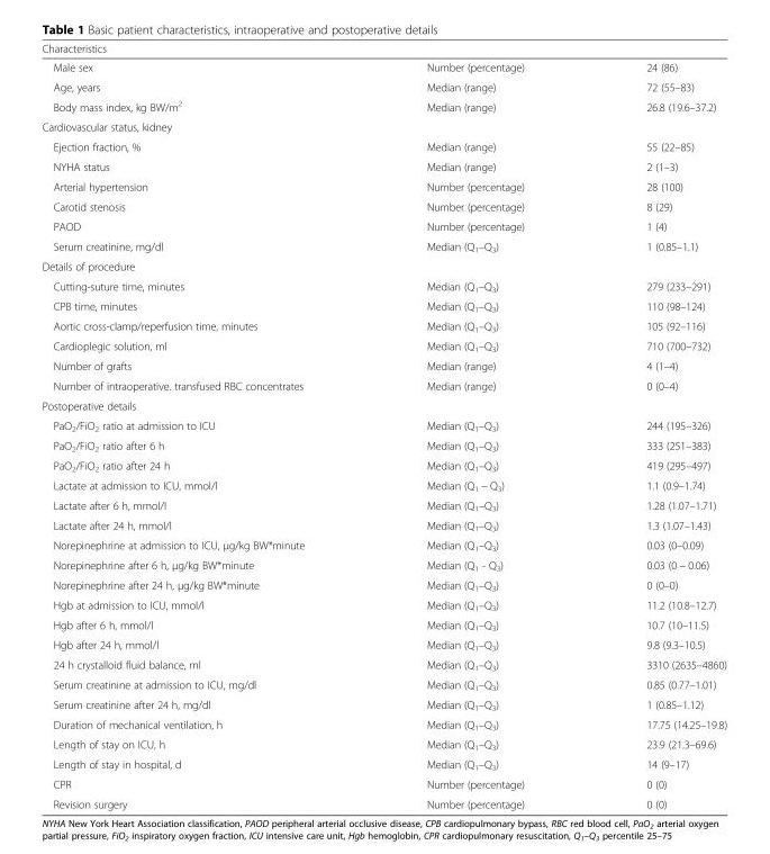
<table><thead><tr><td colspan="3">Characteristics</td></tr><tr><td>Male sex</td><td>Number (percentage)</td><td>24 (86)</td></tr></thead><tbody><tr><td>Age, years</td><td>Median (range)</td><td>72 (55–83)</td></tr><tr><td>Body mass index, kg BW/m<sup>2</sup></td><td>Median (range)</td><td>26.8 (19.6–37.2)</td></tr><tr><td colspan="3">Cardiovascular status, kidney</td></tr><tr><td>Ejection fraction, %</td><td>Median (range)</td><td>55 (22–85)</td></tr><tr><td>NYHA status</td><td>Median (range)</td><td>2 (1–3)</td></tr><tr><td>Arterial hypertension</td><td>Number (percentage)</td><td>28 (100)</td></tr><tr><td>Carotid stenosis</td><td>Number (percentage)</td><td>8 (29)</td></tr><tr><td>PAOD</td><td>Number (percentage)</td><td>1 (4)</td></tr><tr><td>Serum creatinine, mg/dl</td><td>Median (Q<sub>1</sub>–Q<sub>3</sub>)</td><td>1 (0.85–1.1)</td></tr><tr><td colspan="3">Details of procedure</td></tr><tr><td>Cutting-suture time, minutes</td><td>Median (Q<sub>1</sub>–Q<sub>3</sub>)</td><td>279 (233–291)</td></tr><tr><td>CPB time, minutes</td><td>Median (Q<sub>1</sub>–Q<sub>3</sub>)</td><td>110 (98–124)</td></tr><tr><td>Aortic cross-clamp/reperfusion time, minutes</td><td>Median (Q<sub>1</sub>–Q<sub>3</sub>)</td><td>105 (92–116)</td></tr><tr><td>Cardioplegic solution, ml</td><td>Median (Q<sub>1</sub>–Q<sub>3</sub>)</td><td>710 (700–732)</td></tr><tr><td>Number of grafts</td><td>Median (range)</td><td>4 (1–4)</td></tr><tr><td>Number of intraoperative. transfused RBC concentrates</td><td>Median (range)</td><td>0 (0–4)</td></tr><tr><td colspan="3">Postoperative details</td></tr><tr><td>PaO<sub>2</sub>/FiO<sub>2</sub> ratio at admission to ICU</td><td>Median (Q<sub>1</sub>–Q<sub>3</sub>)</td><td>244 (195–326)</td></tr><tr><td>PaO<sub>2</sub>/FiO<sub>2</sub> ratio after 6 h</td><td>Median (Q<sub>1</sub>–Q<sub>3</sub>)</td><td>333 (251–383)</td></tr><tr><td>PaO<sub>2</sub>/FiO<sub>2</sub> ratio after 24 h</td><td>Median (Q<sub>1</sub>–Q<sub>3</sub>)</td><td>419 (295–497)</td></tr><tr><td>Lactate at admission to ICU, mmol/l</td><td>Median (Q<sub>1</sub> − Q<sub>3</sub>)</td><td>1.1 (0.9–1.74)</td></tr><tr><td>Lactate after 6 h, mmol/l</td><td>Median (Q<sub>1</sub>–Q<sub>3</sub>)</td><td>1.28 (1.07–1.71)</td></tr><tr><td>Lactate after 24 h, mmol/l</td><td>Median (Q<sub>1</sub>–Q<sub>3</sub>)</td><td>1.3 (1.07–1.43)</td></tr><tr><td>Norepinephrine at admission to ICU, μg/kg BW*minute</td><td>Median (Q<sub>1</sub>–Q<sub>3</sub>)</td><td>0.03 (0–0.09)</td></tr><tr><td>Norepinephrine after 6 h, μg/kg BW*minute</td><td>Median (Q<sub>1</sub> - Q<sub>3</sub>)</td><td>0.03 (0 − 0.06)</td></tr><tr><td>Norepinephrine after 24 h, μg/kg BW*minute</td><td>Median (Q<sub>1</sub>–Q<sub>3</sub>)</td><td>0 (0–0)</td></tr><tr><td>Hgb at admission to ICU, mmol/l</td><td>Median (Q<sub>1</sub>–Q<sub>3</sub>)</td><td>11.2 (10.8–12.7)</td></tr><tr><td>Hgb after 6 h, mmol/l</td><td>Median (Q<sub>1</sub>–Q<sub>3</sub>)</td><td>10.7 (10–11.5)</td></tr><tr><td>Hgb after 24 h, mmol/l</td><td>Median (Q<sub>1</sub>–Q<sub>3</sub>)</td><td>9.8 (9.3–10.5)</td></tr><tr><td>24 h crystalloid fluid balance, ml</td><td>Median (Q<sub>1</sub>–Q<sub>3</sub>)</td><td>3310 (2635–4860)</td></tr><tr><td>Serum creatinine at admission to ICU, mg/dl</td><td>Median (Q<sub>1</sub>–Q<sub>3</sub>)</td><td>0.85 (0.77–1.01)</td></tr><tr><td>Serum creatinine after 24 h, mg/dl</td><td>Median (Q<sub>1</sub>–Q<sub>3</sub>)</td><td>1 (0.85–1.12)</td></tr><tr><td>Duration of mechanical ventilation, h</td><td>Median (Q<sub>1</sub>–Q<sub>3</sub>)</td><td>17.75 (14.25–19.8)</td></tr><tr><td>Length of stay on ICU, h</td><td>Median (Q<sub>1</sub>–Q<sub>3</sub>)</td><td>23.9 (21.3–69.6)</td></tr><tr><td>Length of stay in hospital, d</td><td>Median (Q<sub>1</sub>–Q<sub>3</sub>)</td><td>14 (9–17)</td></tr><tr><td>CPR</td><td>Number (percentage)</td><td>0 (0)</td></tr><tr><td>Revision surgery</td><td>Number (percentage)</td><td>0 (0)</td></tr></tbody></table>